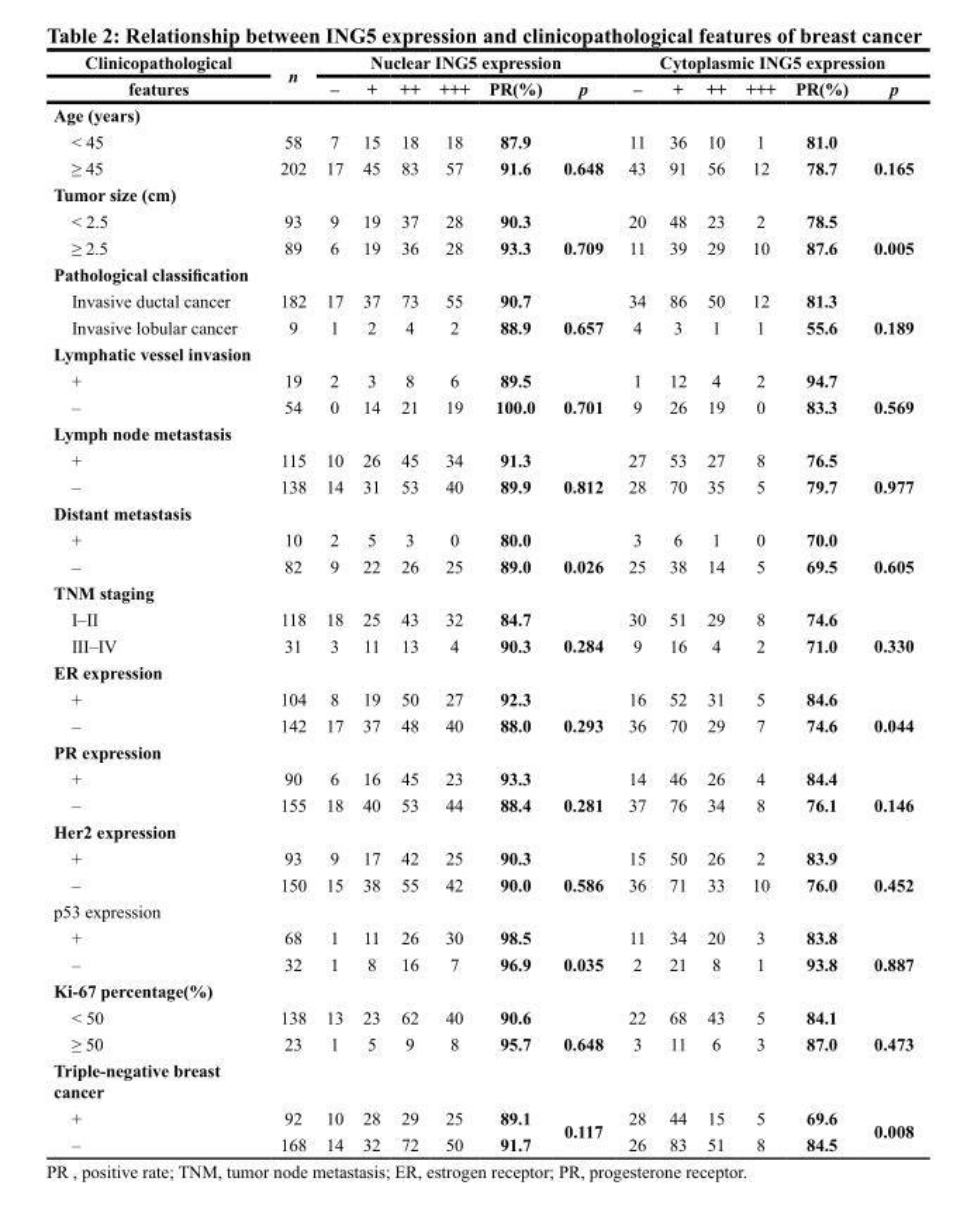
<table><thead><tr><td rowspan="2">Clinicopathological features</td><td rowspan="2">n</td><td colspan="6">Nuclear ING5 expression</td><td colspan="6">Cytoplasmic ING5 expression</td></tr><tr><td>–</td><td>+</td><td>++</td><td>+++</td><td>PR(%)</td><td>p</td><td>–</td><td>+</td><td>++</td><td>+++</td><td>PR(%)</td><td>p</td></tr></thead><tbody><tr><td colspan="14">Age (years)</td></tr><tr><td>&lt; 45</td><td>58</td><td>7</td><td>15</td><td>18</td><td>18</td><td>87.9</td><td rowspan="2">0.648</td><td>11</td><td>36</td><td>10</td><td>1</td><td>81.0</td><td rowspan="2">0.165</td></tr><tr><td>≥ 45</td><td>202</td><td>17</td><td>45</td><td>83</td><td>57</td><td>91.6</td><td>43</td><td>91</td><td>56</td><td>12</td><td>78.7</td></tr><tr><td colspan="14">Tumor size (cm)</td></tr><tr><td>&lt; 2.5</td><td>93</td><td>9</td><td>19</td><td>37</td><td>28</td><td>90.3</td><td></td><td>20</td><td>48</td><td>23</td><td>2</td><td>78.5</td><td></td></tr><tr><td>≥ 2.5</td><td>89</td><td>6</td><td>19</td><td>36</td><td>28</td><td>93.3</td><td>0.709</td><td>11</td><td>39</td><td>29</td><td>10</td><td>87.6</td><td>0.005</td></tr><tr><td colspan="14">Pathological classification</td></tr><tr><td>Invasive ductal cancer</td><td>182</td><td>17</td><td>37</td><td>73</td><td>55</td><td>90.7</td><td rowspan="2">0.657</td><td>34</td><td>86</td><td>50</td><td>12</td><td>81.3</td><td rowspan="2">0.189</td></tr><tr><td>Invasive lobular cancer</td><td>9</td><td>1</td><td>2</td><td>4</td><td>2</td><td>88.9</td><td>4</td><td>3</td><td>1</td><td>1</td><td>55.6</td></tr><tr><td colspan="14">Lymphatic vessel invasion</td></tr><tr><td>+</td><td>19</td><td>2</td><td>3</td><td>8</td><td>6</td><td>89.5</td><td rowspan="2">0.701</td><td>1</td><td>12</td><td>4</td><td>2</td><td>94.7</td><td rowspan="2">0.569</td></tr><tr><td>–</td><td>54</td><td>0</td><td>14</td><td>21</td><td>19</td><td>100.0</td><td>9</td><td>26</td><td>19</td><td>0</td><td>83.3</td></tr><tr><td colspan="14">Lymph node metastasis</td></tr><tr><td>+</td><td>115</td><td>10</td><td>26</td><td>45</td><td>34</td><td>91.3</td><td rowspan="2">0.812</td><td>27</td><td>53</td><td>27</td><td>8</td><td>76.5</td><td rowspan="2">0.977</td></tr><tr><td>–</td><td>138</td><td>14</td><td>31</td><td>53</td><td>40</td><td>89.9</td><td>28</td><td>70</td><td>35</td><td>5</td><td>79.7</td></tr><tr><td colspan="14">Distant metastasis</td></tr><tr><td>+</td><td>10</td><td>2</td><td>5</td><td>3</td><td>0</td><td>80.0</td><td rowspan="2">0.026</td><td>3</td><td>6</td><td>1</td><td>0</td><td>70.0</td><td rowspan="2">0.605</td></tr><tr><td>–</td><td>82</td><td>9</td><td>22</td><td>26</td><td>25</td><td>89.0</td><td>25</td><td>38</td><td>14</td><td>5</td><td>69.5</td></tr><tr><td colspan="14">TNM staging</td></tr><tr><td>I–II</td><td>118</td><td>18</td><td>25</td><td>43</td><td>32</td><td>84.7</td><td></td><td>30</td><td>51</td><td>29</td><td>8</td><td>74.6</td><td></td></tr><tr><td>III–IV</td><td>31</td><td>3</td><td>11</td><td>13</td><td>4</td><td>90.3</td><td>0.284</td><td>9</td><td>16</td><td>4</td><td>2</td><td>71.0</td><td>0.330</td></tr><tr><td colspan="14">ER expression</td></tr><tr><td>+</td><td>104</td><td>8</td><td>19</td><td>50</td><td>27</td><td>92.3</td><td rowspan="2">0.293</td><td>16</td><td>52</td><td>31</td><td>5</td><td>84.6</td><td rowspan="2">0.044</td></tr><tr><td>–</td><td>142</td><td>17</td><td>37</td><td>48</td><td>40</td><td>88.0</td><td>36</td><td>70</td><td>29</td><td>7</td><td>74.6</td></tr><tr><td colspan="14">PR expression</td></tr><tr><td>+</td><td>90</td><td>6</td><td>16</td><td>45</td><td>23</td><td>93.3</td><td rowspan="2">0.281</td><td>14</td><td>46</td><td>26</td><td>4</td><td>84.4</td><td rowspan="2">0.146</td></tr><tr><td>–</td><td>155</td><td>18</td><td>40</td><td>53</td><td>44</td><td>88.4</td><td>37</td><td>76</td><td>34</td><td>8</td><td>76.1</td></tr><tr><td colspan="14">Her2 expression</td></tr><tr><td>+</td><td>93</td><td>9</td><td>17</td><td>42</td><td>25</td><td>90.3</td><td rowspan="2">0.586</td><td>15</td><td>50</td><td>26</td><td>2</td><td>83.9</td><td rowspan="2">0.452</td></tr><tr><td>–</td><td>150</td><td>15</td><td>38</td><td>55</td><td>42</td><td>90.0</td><td>36</td><td>71</td><td>33</td><td>10</td><td>76.0</td></tr><tr><td colspan="14">p53 expression</td></tr><tr><td>+</td><td>68</td><td>1</td><td>11</td><td>26</td><td>30</td><td>98.5</td><td rowspan="2">0.035</td><td>11</td><td>34</td><td>20</td><td>3</td><td>83.8</td><td rowspan="2">0.887</td></tr><tr><td>–</td><td>32</td><td>1</td><td>8</td><td>16</td><td>7</td><td>96.9</td><td>2</td><td>21</td><td>8</td><td>1</td><td>93.8</td></tr><tr><td colspan="14">Ki-67 percentage(%)</td></tr><tr><td>&lt; 50</td><td>138</td><td>13</td><td>23</td><td>62</td><td>40</td><td>90.6</td><td rowspan="2">0.648</td><td>22</td><td>68</td><td>43</td><td>5</td><td>84.1</td><td rowspan="2">0.473</td></tr><tr><td>≥ 50</td><td>23</td><td>1</td><td>5</td><td>9</td><td>8</td><td>95.7</td><td>3</td><td>11</td><td>6</td><td>3</td><td>87.0</td></tr><tr><td colspan="14">Triple-negative breast cancer</td></tr><tr><td>+</td><td>92</td><td>10</td><td>28</td><td>29</td><td>25</td><td>89.1</td><td rowspan="2">0.117</td><td>28</td><td>44</td><td>15</td><td>5</td><td>69.6</td><td rowspan="2">0.008</td></tr><tr><td>–</td><td>168</td><td>14</td><td>32</td><td>72</td><td>50</td><td>91.7</td><td>26</td><td>83</td><td>51</td><td>8</td><td>84.5</td></tr></tbody></table>